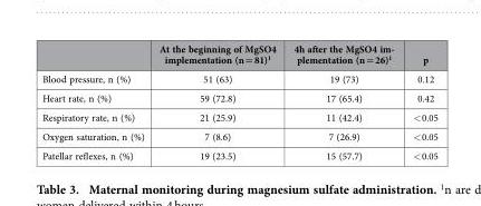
<table><thead><tr><td></td><td>At the beginning of MgSO4 implementation (n = 81)<sup>1</sup></td><td>4h after the MgSO4 im- plementation (n = 26)1</td><td>p</td></tr></thead><tbody><tr><td>Blood pressure, n (%)</td><td>51 (63)</td><td>19 (73)</td><td>0.12</td></tr><tr><td>Heart rate, n (%)</td><td>59 (72.8)</td><td>17 (65.4)</td><td>0.42</td></tr><tr><td>Respiratory rate, n (%)</td><td>21 (25.9)</td><td>11 (42.4)</td><td>&lt; 0.05</td></tr><tr><td>Oxygen saturation, n (%)</td><td>7 (8.6)</td><td>7 (26.9)</td><td>&lt; 0.05</td></tr><tr><td>Patellar reflexes, n (%)</td><td>19 (23.5)</td><td>15 (57.7)</td><td>&lt; 0.05</td></tr></tbody></table>